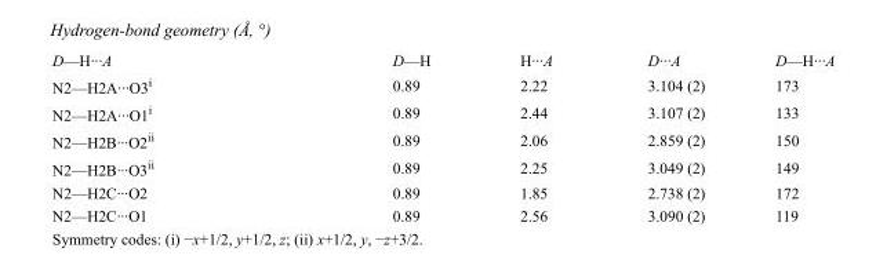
<table><tbody><tr><td>D—H···A</td><td>D—H</td><td>H···A</td><td>D···A</td><td>D—H···A</td></tr><tr><td>N2—H2A···O3<sup>i</sup></td><td>0.89</td><td>2.22</td><td>3.104 (2)</td><td>173</td></tr><tr><td>N2—H2A···O1<sup>i</sup></td><td>0.89</td><td>2.44</td><td>3.107 (2)</td><td>133</td></tr><tr><td>N2—H2B···O2<sup>ii</sup></td><td>0.89</td><td>2.06</td><td>2.859 (2)</td><td>150</td></tr><tr><td>N2—H2B···O3<sup>ii</sup></td><td>0.89</td><td>2.25</td><td>3.049 (2)</td><td>149</td></tr><tr><td>N2—H2C···O2</td><td>0.89</td><td>1.85</td><td>2.738 (2)</td><td>172</td></tr><tr><td>N2—H2C···O1</td><td>0.89</td><td>2.56</td><td>3.090 (2)</td><td>119</td></tr></tbody></table>